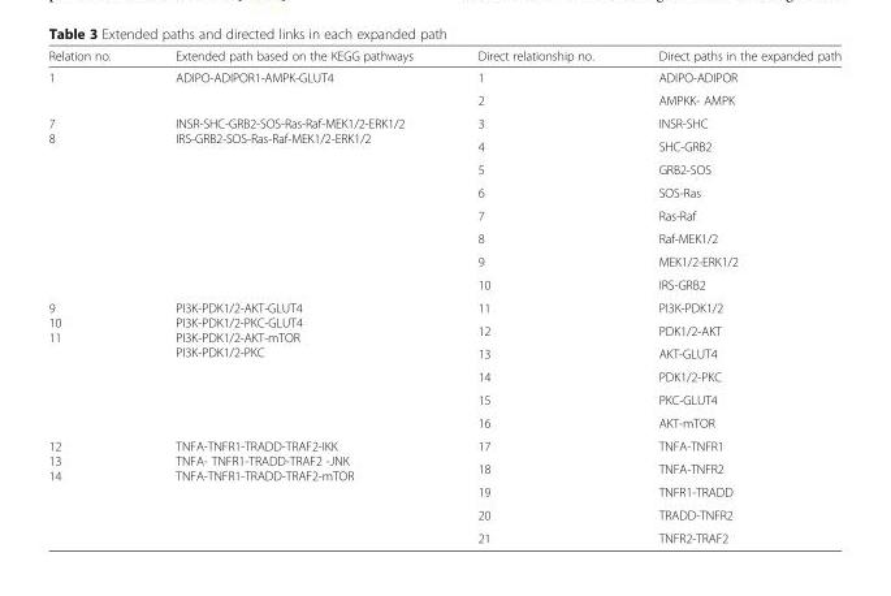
<table><thead><tr><td>Relation no.</td><td>Extended path based on the KEGG pathways</td><td>Direct relationship no.</td><td>Direct paths in the expanded path</td></tr></thead><tbody><tr><td rowspan="2">1</td><td rowspan="2">ADIPO-ADIPOR1-AMPK-GLUT4</td><td>1</td><td>ADIPO-ADIPOR</td></tr><tr><td>2</td><td>AMPKK- AMPK</td></tr><tr><td rowspan="8">7 8</td><td rowspan="8">INSR-SHC-GRB2-SOS-Ras-Raf-MEK1/2-ERK1/2 IRS-GRB2-SOS-Ras-Raf-MEK1/2-ERK1/2</td><td>3</td><td>INSR-SHC</td></tr><tr><td>4</td><td>SHC-GRB2</td></tr><tr><td>5</td><td>GRB2-SOS</td></tr><tr><td>6</td><td>SOS-Ras</td></tr><tr><td>7</td><td>Ras-Raf</td></tr><tr><td>8</td><td>Raf-MEK1/2</td></tr><tr><td>9</td><td>MEK1/2-ERK1/2</td></tr><tr><td>10</td><td>IRS-GRB2</td></tr><tr><td rowspan="6">9 10 11</td><td rowspan="6">PI3K-PDK1/2-AKT-GLUT4 PI3K-PDK1/2-PKC-GLUT4 PI3K-PDK1/2-AKT-mTOR PI3K-PDK1/2-PKC</td><td>11</td><td>PI3K-PDK1/2</td></tr><tr><td>12</td><td>PDK1/2-AKT</td></tr><tr><td>13</td><td>AKT-GLUT4</td></tr><tr><td>14</td><td>PDK1/2-PKC</td></tr><tr><td>15</td><td>PKC-GLUT4</td></tr><tr><td>16</td><td>AKT-mTOR</td></tr><tr><td rowspan="5">12 13 14</td><td rowspan="5">TNFA-TNFR1-TRADD-TRAF2-IKK TNFA- TNFR1-TRADD-TRAF2 -JNK TNFA-TNFR1-TRADD-TRAF2-mTOR</td><td>17</td><td>TNFA-TNFR1</td></tr><tr><td>18</td><td>TNFA-TNFR2</td></tr><tr><td>19</td><td>TNFR1-TRADD</td></tr><tr><td>20</td><td>TRADD-TNFR2</td></tr><tr><td>21</td><td>TNFR2-TRAF2</td></tr></tbody></table>